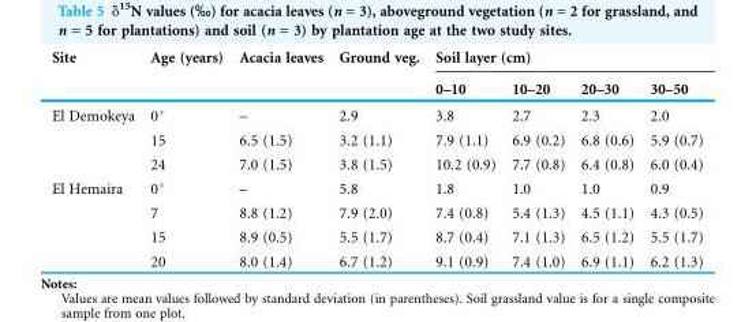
<table><thead><tr><td rowspan="2">Site</td><td rowspan="2">Age (years)</td><td rowspan="2">Acacia leaves</td><td rowspan="2">Ground veg.</td><td colspan="4">Soil layer (cm)</td></tr><tr><td>0–10</td><td>10–20</td><td>20–30</td><td>30–50</td></tr></thead><tbody><tr><td rowspan="3">El Demokeya</td><td>0*</td><td>–</td><td>2.9</td><td>3.8</td><td>2.7</td><td>2.3</td><td>2.0</td></tr><tr><td>15</td><td>6.5 (1.5)</td><td>3.2 (1.1)</td><td>7.9 (1.1)</td><td>6.9 (0.2)</td><td>6.8 (0.6)</td><td>5.9 (0.7)</td></tr><tr><td>24</td><td>7.0 (1.5)</td><td>3.8 (1.5)</td><td>10.2 (0.9)</td><td>7.7 (0.8)</td><td>6.4 (0.8)</td><td>6.0 (0.4)</td></tr><tr><td rowspan="4">El Hemaira</td><td>0*</td><td>–</td><td>5.8</td><td>1.8</td><td>1.0</td><td>1.0</td><td>0.9</td></tr><tr><td>7</td><td>8.8 (1.2)</td><td>7.9 (2.0)</td><td>7.4 (0.8)</td><td>5.4 (1.3)</td><td>4.5 (1.1)</td><td>4.3 (0.5)</td></tr><tr><td>15</td><td>8.9 (0.5)</td><td>5.5 (1.7)</td><td>8.7 (0.4)</td><td>7.1 (1.3)</td><td>6.5 (1.2)</td><td>5.5 (1.7)</td></tr><tr><td>20</td><td>8.0 (1.4)</td><td>6.7 (1.2)</td><td>9.1 (0.9)</td><td>7.4 (1.0)</td><td>6.9 (1.1)</td><td>6.2 (1.3)</td></tr></tbody></table>